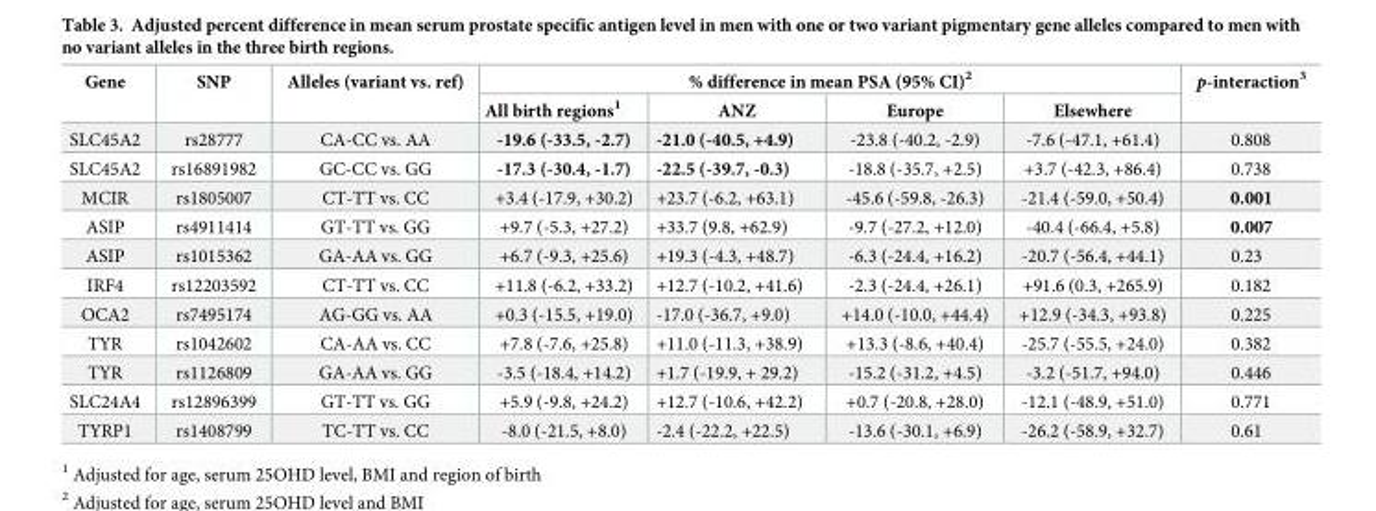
<table><thead><tr><td rowspan="2">Gene</td><td rowspan="2">SNP</td><td rowspan="2">Alleles (variant vs. ref)</td><td colspan="4">% difference in mean PSA (95% CI)<sup>2</sup></td><td rowspan="2">p-interaction<sup>3</sup></td></tr><tr><td>All birth regions<sup>1</sup></td><td>ANZ</td><td>Europe</td><td>Elsewhere</td></tr></thead><tbody><tr><td>SLC45A2</td><td>rs28777</td><td>CA-CC vs. AA</td><td>-19.6 (-33.5, -2.7)</td><td>-21.0 (-40.5, +4.9)</td><td>-23.8 (-40.2, -2.9)</td><td>-7.6 (-47.1, +61.4)</td><td>0.808</td></tr><tr><td>SLC45A2</td><td>rs16891982</td><td>GC-CC vs. GG</td><td>-17.3 (-30.4, -1.7)</td><td>-22.5 (-39.7, -0.3)</td><td>-18.8 (-35.7, +2.5)</td><td>+3.7 (-42.3, +86.4)</td><td>0.738</td></tr><tr><td>MCIR</td><td>rs1805007</td><td>CT-TT vs. CC</td><td>+3.4 (-17.9, +30.2)</td><td>+23.7 (-6.2, +63.1)</td><td>-45.6 (-59.8, -26.3)</td><td>-21.4 (-59.0, +50.4)</td><td>0.001</td></tr><tr><td>ASIP</td><td>rs4911414</td><td>GT-TT vs. GG</td><td>+9.7 (-5.3, +27.2)</td><td>+33.7 (9.8, +62.9)</td><td>-9.7 (-27.2, +12.0)</td><td>-40.4 (-66.4, +5.8)</td><td>0.007</td></tr><tr><td>ASIP</td><td>rs1015362</td><td>GA-AA vs. GG</td><td>+6.7 (-9.3, +25.6)</td><td>+19.3 (-4.3, +48.7)</td><td>-6.3 (-24.4, +16.2)</td><td>-20.7 (-56.4, +44.1)</td><td>0.23</td></tr><tr><td>IRF4</td><td>rs12203592</td><td>CT-TT vs. CC</td><td>+11.8 (-6.2, +33.2)</td><td>+12.7 (-10.2, +41.6)</td><td>-2.3 (-24.4, +26.1)</td><td>+91.6 (0.3, +265.9)</td><td>0.182</td></tr><tr><td>OCA2</td><td>rs7495174</td><td>AG-GG vs. AA</td><td>+0.3 (-15.5, +19.0)</td><td>-17.0 (-36.7, +9.0)</td><td>+14.0 (-10.0, +44.4)</td><td>+12.9 (-34.3, +93.8)</td><td>0.225</td></tr><tr><td>TYR</td><td>rs1042602</td><td>CA-AA vs. CC</td><td>+7.8 (-7.6, +25.8)</td><td>+11.0 (-11.3, +38.9)</td><td>+13.3 (-8.6, +40.4)</td><td>-25.7 (-55.5, +24.0)</td><td>0.382</td></tr><tr><td>TYR</td><td>rs1126809</td><td>GA-AA vs. GG</td><td>-3.5 (-18.4, +14.2)</td><td>+1.7 (-19.9, + 29.2)</td><td>-15.2 (-31.2, +4.5)</td><td>-3.2 (-51.7, +94.0)</td><td>0.446</td></tr><tr><td>SLC24A4</td><td>rs12896399</td><td>GT-TT vs. GG</td><td>+5.9 (-9.8, +24.2)</td><td>+12.7 (-10.6, +42.2)</td><td>+0.7 (-20.8, +28.0)</td><td>-12.1 (-48.9, +51.0)</td><td>0.771</td></tr><tr><td>TYRP1</td><td>rs1408799</td><td>TC-TT vs. CC</td><td>-8.0 (-21.5, +8.0)</td><td>-2.4 (-22.2, +22.5)</td><td>-13.6 (-30.1, +6.9)</td><td>-26.2 (-58.9, +32.7)</td><td>0.61</td></tr></tbody></table>